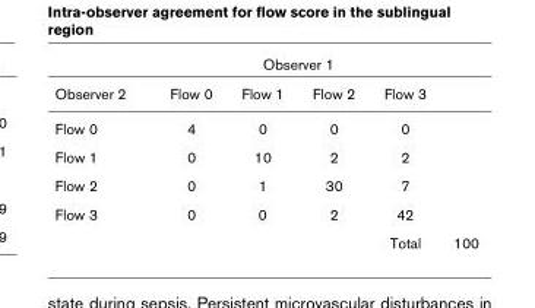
<table><thead><tr><td rowspan="2">Observer 2</td><td colspan="4">Observer 1</td><td rowspan="2"></td></tr><tr><td>Flow 0</td><td>Flow 1</td><td>Flow 2</td><td>Flow 3</td></tr></thead><tbody><tr><td>Flow 0</td><td>4</td><td>0</td><td>0</td><td>0</td><td></td></tr><tr><td>Flow 1</td><td>0</td><td>10</td><td>2</td><td>2</td><td></td></tr><tr><td>Flow 2</td><td>0</td><td>1</td><td>30</td><td>7</td><td></td></tr><tr><td rowspan="2">Flow 3</td><td>0</td><td>0</td><td>2</td><td>42</td><td></td></tr><tr><td></td><td></td><td></td><td>Total</td><td>100</td></tr></tbody></table>